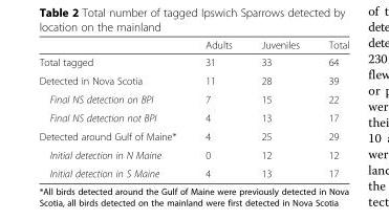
<table><thead><tr><td></td><td>Adults</td><td>Juveniles</td><td>Total</td></tr></thead><tbody><tr><td>Total tagged</td><td>31</td><td>33</td><td>64</td></tr><tr><td>Detected in Nova Scotia</td><td>11</td><td>28</td><td>39</td></tr><tr><td>Final NS detection on BPI</td><td>7</td><td>15</td><td>22</td></tr><tr><td>Final NS detection not BPI</td><td>4</td><td>13</td><td>17</td></tr><tr><td>Detected around Gulf of Maine*</td><td>4</td><td>25</td><td>29</td></tr><tr><td>Initial detection in N Maine</td><td>0</td><td>12</td><td>12</td></tr><tr><td>Initial detection in S Maine</td><td>4</td><td>13</td><td>17</td></tr></tbody></table>